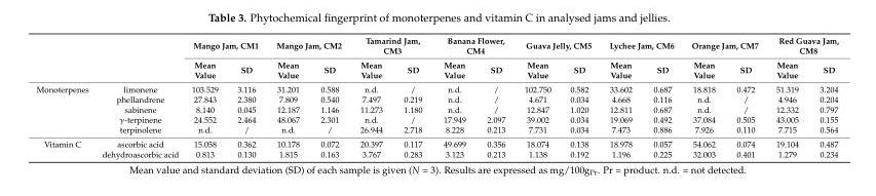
<table><thead><tr><td rowspan="2"></td><td rowspan="2"></td><td colspan="2">Mango Jam, CM1</td><td colspan="2">Mango Jam, CM2</td><td colspan="2">Tamarind Jam, CM3</td><td colspan="2">Banana Flower, CM4</td><td colspan="2">Guava Jelly, CM5</td><td colspan="2">Lychee Jam, CM6</td><td colspan="2">Orange Jam, CM7</td><td colspan="2">Red Guava Jam, CM8</td></tr><tr><td>Mean Value</td><td>SD</td><td>Mean Value</td><td>SD</td><td>Mean Value</td><td>SD</td><td>Mean Value</td><td>SD</td><td>Mean Value</td><td>SD</td><td>Mean Value</td><td>SD</td><td>Mean Value</td><td>SD</td><td>Mean Value</td><td>SD</td></tr></thead><tbody><tr><td rowspan="5">Monoterpenes</td><td>limonene</td><td>103.529</td><td>3.116</td><td>31.201</td><td>0.588</td><td>n.d.</td><td>/</td><td>n.d.</td><td>/</td><td>102.750</td><td>0.582</td><td>33.602</td><td>0.687</td><td>18.818</td><td>0.472</td><td>51.319</td><td>3.204</td></tr><tr><td>phellandrene</td><td>27.843</td><td>2.380</td><td>7.809</td><td>0.540</td><td>7.497</td><td>0.219</td><td>n.d.</td><td>/</td><td>4.671</td><td>0.034</td><td>4.668</td><td>0.116</td><td>n.d.</td><td>/</td><td>4.946</td><td>0.204</td></tr><tr><td>sabinene</td><td>8.140</td><td>0.045</td><td>12.187</td><td>1.146</td><td>11.273</td><td>1.180</td><td>n.d.</td><td>/</td><td>12.847</td><td>1.020</td><td>12.811</td><td>0.687</td><td>n.d.</td><td>/</td><td>12.332</td><td>0.797</td></tr><tr><td>γ-terpinene</td><td>24.552</td><td>2.464</td><td>48.067</td><td>2.301</td><td>n.d.</td><td>/</td><td>17.949</td><td>2.097</td><td>39.002</td><td>0.034</td><td>19.069</td><td>0.492</td><td>37.084</td><td>0.505</td><td>43.005</td><td>0.155</td></tr><tr><td>terpinolene</td><td>n.d.</td><td>/</td><td>n.d.</td><td>/</td><td>26.944</td><td>2.718</td><td>8.228</td><td>0.213</td><td>7.731</td><td>0.034</td><td>7.473</td><td>0.886</td><td>7.926</td><td>0.110</td><td>7.715</td><td>0.564</td></tr><tr><td rowspan="2">Vitamin C</td><td>ascorbic acid</td><td>15.058</td><td>0.362</td><td>10.178</td><td>0.072</td><td>20.397</td><td>0.117</td><td>49.699</td><td>0.356</td><td>18.074</td><td>0.138</td><td>18.978</td><td>0.057</td><td>54.062</td><td>0.074</td><td>19.104</td><td>0.487</td></tr><tr><td>dehydroascorbic acid</td><td>0.813</td><td>0.130</td><td>1.815</td><td>0.163</td><td>3.767</td><td>0.283</td><td>3.123</td><td>0.213</td><td>1.138</td><td>0.192</td><td>1.196</td><td>0.225</td><td>32.003</td><td>0.401</td><td>1.279</td><td>0.234</td></tr></tbody></table>